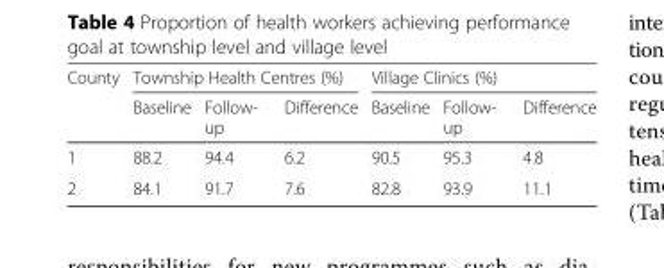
<table><thead><tr><td rowspan="2">County</td><td colspan="3">Township Health Centres (%)</td><td colspan="3">Village Clinics (%)</td></tr><tr><td>Baseline</td><td>Follow- up</td><td>Difference</td><td>Baseline</td><td>Follow- up</td><td>Difference</td></tr></thead><tbody><tr><td>1</td><td>88.2</td><td>94.4</td><td>6.2</td><td>90.5</td><td>95.3</td><td>4.8</td></tr><tr><td>2</td><td>84.1</td><td>91.7</td><td>7.6</td><td>82.8</td><td>93.9</td><td>11.1</td></tr></tbody></table>